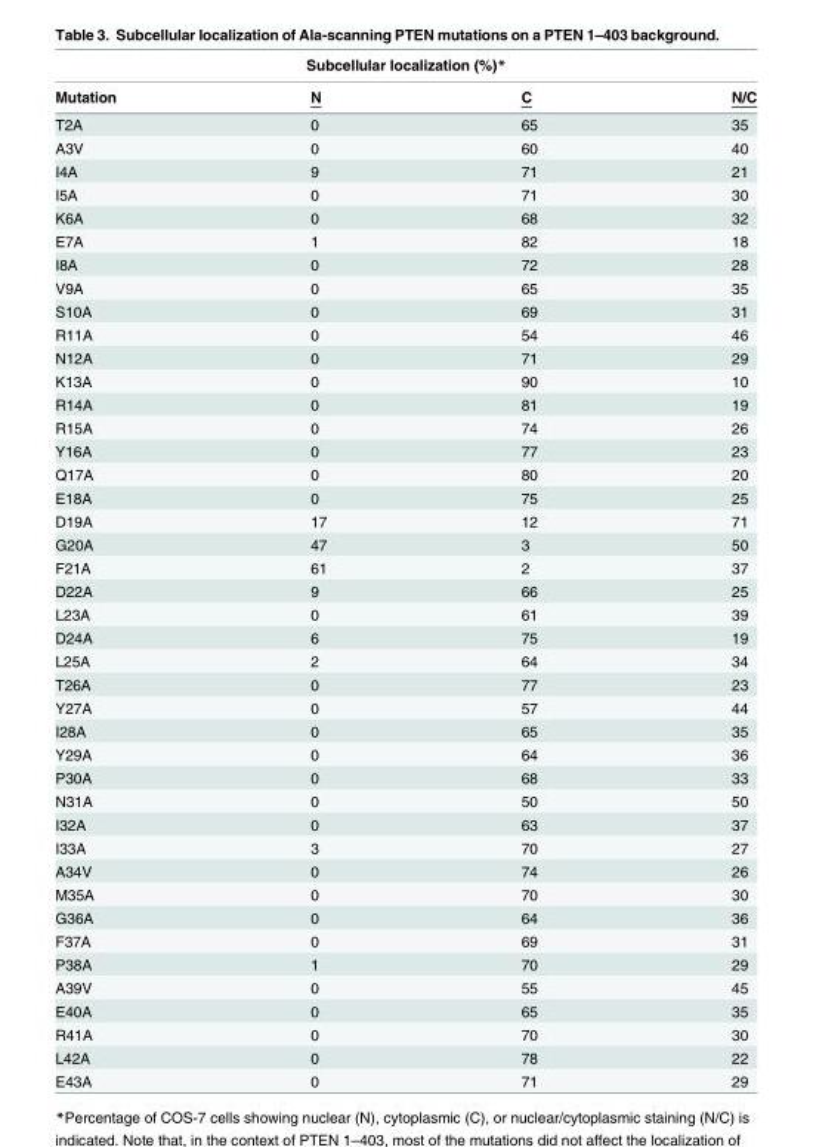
<table><thead><tr><td colspan="4">Subcellular localization (%)*</td></tr><tr><td>Mutation</td><td>N</td><td>C</td><td>N/C</td></tr></thead><tbody><tr><td>T2A</td><td>0</td><td>65</td><td>35</td></tr><tr><td>A3V</td><td>0</td><td>60</td><td>40</td></tr><tr><td>I4A</td><td>9</td><td>71</td><td>21</td></tr><tr><td>I5A</td><td>0</td><td>71</td><td>30</td></tr><tr><td>K6A</td><td>0</td><td>68</td><td>32</td></tr><tr><td>E7A</td><td>1</td><td>82</td><td>18</td></tr><tr><td>I8A</td><td>0</td><td>72</td><td>28</td></tr><tr><td>V9A</td><td>0</td><td>65</td><td>35</td></tr><tr><td>S10A</td><td>0</td><td>69</td><td>31</td></tr><tr><td>R11A</td><td>0</td><td>54</td><td>46</td></tr><tr><td>N12A</td><td>0</td><td>71</td><td>29</td></tr><tr><td>K13A</td><td>0</td><td>90</td><td>10</td></tr><tr><td>R14A</td><td>0</td><td>81</td><td>19</td></tr><tr><td>R15A</td><td>0</td><td>74</td><td>26</td></tr><tr><td>Y16A</td><td>0</td><td>77</td><td>23</td></tr><tr><td>Q17A</td><td>0</td><td>80</td><td>20</td></tr><tr><td>E18A</td><td>0</td><td>75</td><td>25</td></tr><tr><td>D19A</td><td>17</td><td>12</td><td>71</td></tr><tr><td>G20A</td><td>47</td><td>3</td><td>50</td></tr><tr><td>F21A</td><td>61</td><td>2</td><td>37</td></tr><tr><td>D22A</td><td>9</td><td>66</td><td>25</td></tr><tr><td>L23A</td><td>0</td><td>61</td><td>39</td></tr><tr><td>D24A</td><td>6</td><td>75</td><td>19</td></tr><tr><td>L25A</td><td>2</td><td>64</td><td>34</td></tr><tr><td>T26A</td><td>0</td><td>77</td><td>23</td></tr><tr><td>Y27A</td><td>0</td><td>57</td><td>44</td></tr><tr><td>I28A</td><td>0</td><td>65</td><td>35</td></tr><tr><td>Y29A</td><td>0</td><td>64</td><td>36</td></tr><tr><td>P30A</td><td>0</td><td>68</td><td>33</td></tr><tr><td>N31A</td><td>0</td><td>50</td><td>50</td></tr><tr><td>I32A</td><td>0</td><td>63</td><td>37</td></tr><tr><td>I33A</td><td>3</td><td>70</td><td>27</td></tr><tr><td>A34V</td><td>0</td><td>74</td><td>26</td></tr><tr><td>M35A</td><td>0</td><td>70</td><td>30</td></tr><tr><td>G36A</td><td>0</td><td>64</td><td>36</td></tr><tr><td>F37A</td><td>0</td><td>69</td><td>31</td></tr><tr><td>P38A</td><td>1</td><td>70</td><td>29</td></tr><tr><td>A39V</td><td>0</td><td>55</td><td>45</td></tr><tr><td>E40A</td><td>0</td><td>65</td><td>35</td></tr><tr><td>R41A</td><td>0</td><td>70</td><td>30</td></tr><tr><td>L42A</td><td>0</td><td>78</td><td>22</td></tr><tr><td>E43A</td><td>0</td><td>71</td><td>29</td></tr></tbody></table>